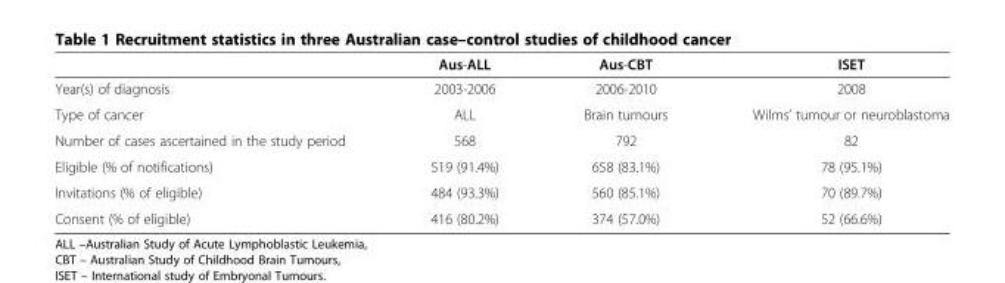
<table><thead><tr><td></td><td>Aus-ALL</td><td>Aus-CBT</td><td>ISET</td></tr></thead><tbody><tr><td>Year(s) of diagnosis</td><td>2003-2006</td><td>2006-2010</td><td>2008</td></tr><tr><td>Type of cancer</td><td>ALL</td><td>Brain tumours</td><td>Wilms’ tumour or neuroblastoma</td></tr><tr><td>Number of cases ascertained in the study period</td><td>568</td><td>792</td><td>82</td></tr><tr><td>Eligible (% of notifications)</td><td>519 (91.4%)</td><td>658 (83.1%)</td><td>78 (95.1%)</td></tr><tr><td>Invitations (% of eligible)</td><td>484 (93.3%)</td><td>560 (85.1%)</td><td>70 (89.7%)</td></tr><tr><td>Consent (% of eligible)</td><td>416 (80.2%)</td><td>374 (57.0%)</td><td>52 (66.6%)</td></tr></tbody></table>